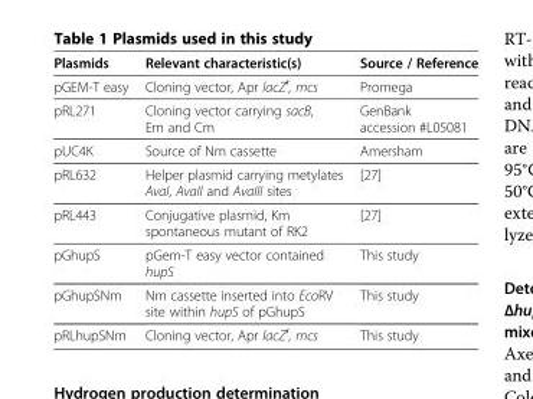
<table><thead><tr><td>Plasmids</td><td>Relevant characteristic(s)</td><td>Source / Reference</td></tr></thead><tbody><tr><td>pGEM-T easy</td><td>Cloning vector, Apr lacZ<sup>′</sup>, mcs</td><td>Promega</td></tr><tr><td>pRL271</td><td>Cloning vector carrying sacB, Em and Cm</td><td>GenBank accession #L05081</td></tr><tr><td>pUC4K</td><td>Source of Nm cassette</td><td>Amersham</td></tr><tr><td>pRL632</td><td>Helper plasmid carrying metylates AvaI, AvaII and AvaIII sites</td><td>[27]</td></tr><tr><td>pRL443</td><td>Conjugative plasmid, Km spontaneous mutant of RK2</td><td>[27]</td></tr><tr><td>pGhupS</td><td>pGem-T easy vector contained hupS</td><td>This study</td></tr><tr><td>pGhupSNm</td><td>Nm cassette inserted into EcoRV site within hupS of pGhupS</td><td>This study</td></tr><tr><td>pRLhupSNm</td><td>Cloning vector, Apr lacZ<sup>′</sup>, mcs</td><td>This study</td></tr></tbody></table>